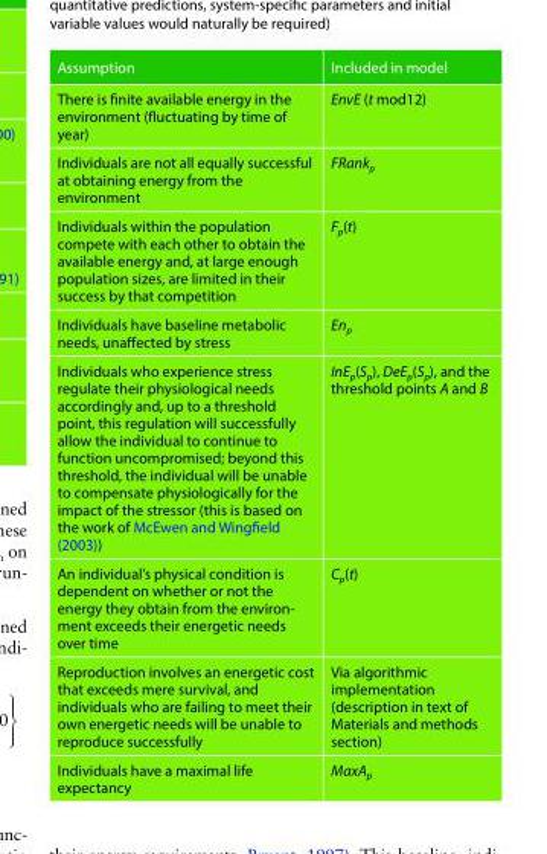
<table><thead><tr><td>Assumption</td><td>Included in model</td></tr></thead><tbody><tr><td>There is finite available energy in the environment (fluctuating by time of year)</td><td>EnvE (t mod12)</td></tr><tr><td>Individuals are not all equally successful at obtaining energy from the environment</td><td>FRank<sub>p</sub></td></tr><tr><td>Individuals within the population compete with each other to obtain the available energy and, at large enough population sizes, are limited in their success by that competition</td><td>F<sub>p</sub>(t)</td></tr><tr><td>Individuals have baseline metabolic needs, unaffected by stress</td><td>En<sub>p</sub></td></tr><tr><td>Individuals who experience stress regulate their physiological needs accordingly and, up to a threshold point, this regulation will successfully allow the individual to continue to function uncompromised; beyond this threshold, the individual will be unable to compensate physiologically for the impact of the stressor (this is based on the work of McEwen and Wingfield (2003))</td><td>InE<sub>p</sub>(S<sub>p</sub>), DeE<sub>p</sub>(S<sub>p</sub>), and the threshold points A and B</td></tr><tr><td>An individual’s physical condition is dependent on whether or not the energy they obtain from the environ- ment exceeds their energetic needs over time</td><td>C<sub>p</sub>(t)</td></tr><tr><td>Reproduction involves an energetic cost that exceeds mere survival, and individuals who are failing to meet their own energetic needs will be unable to reproduce successfully</td><td>Via algorithmic implementation (description in text of Materials and methods section)</td></tr><tr><td>Individuals have a maximal life expectancy</td><td>MaxA<sub>p</sub></td></tr></tbody></table>